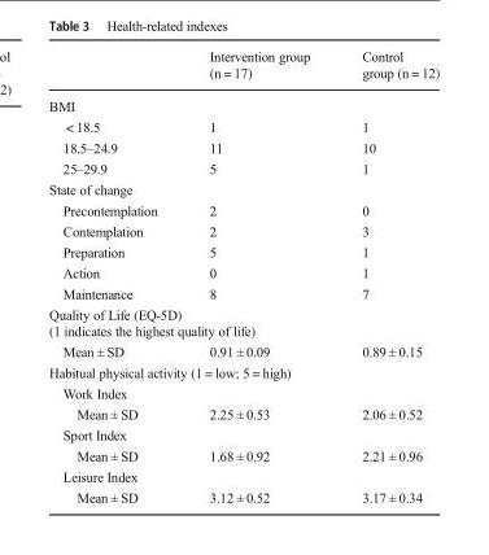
<table><thead><tr><td></td><td>Intervention group (n = 17)</td><td>Control group (n = 12)</td></tr></thead><tbody><tr><td colspan="3">BMI</td></tr><tr><td>&lt; 18.5</td><td>1</td><td>1</td></tr><tr><td>18.5–24.9</td><td>11</td><td>10</td></tr><tr><td>25–29.9</td><td>5</td><td>1</td></tr><tr><td colspan="3">State of change</td></tr><tr><td>Precontemplation</td><td>2</td><td>0</td></tr><tr><td>Contemplation</td><td>2</td><td>3</td></tr><tr><td>Preparation</td><td>5</td><td>1</td></tr><tr><td>Action</td><td>0</td><td>1</td></tr><tr><td>Maintenance</td><td>8</td><td>7</td></tr><tr><td colspan="3">Quality of Life (EQ-5D) (1 indicates the highest quality of life)</td></tr><tr><td>Mean ± SD</td><td>0.91 ± 0.09</td><td>0.89 ± 0.15</td></tr><tr><td colspan="3">Habitual physical activity (1 = low; 5 = high)</td></tr><tr><td colspan="3">Work Index</td></tr><tr><td>Mean ± SD</td><td>2.25 ± 0.53</td><td>2.06 ± 0.52</td></tr><tr><td colspan="3">Sport Index</td></tr><tr><td>Mean ± SD</td><td>1.68 ± 0.92</td><td>2.21 ± 0.96</td></tr><tr><td colspan="3">Leisure Index</td></tr><tr><td>Mean ± SD</td><td>3.12 ± 0.52</td><td>3.17 ± 0.34</td></tr></tbody></table>